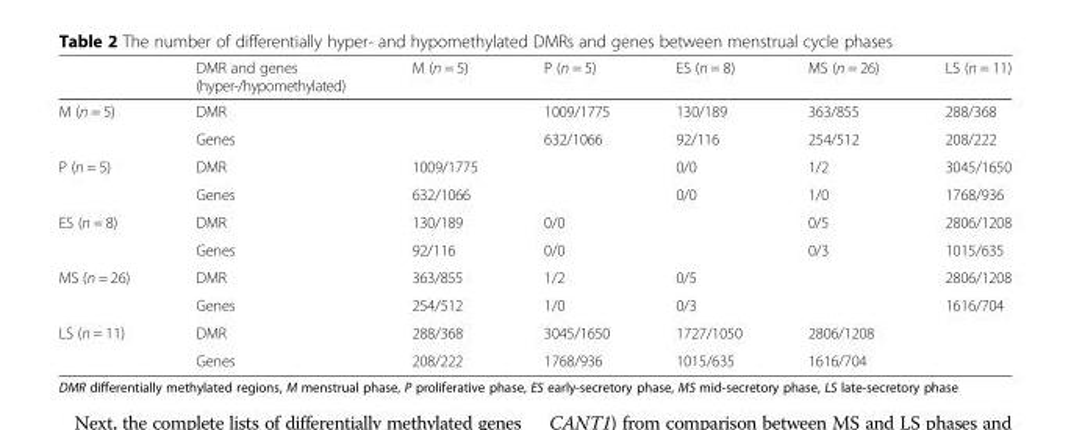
<table><thead><tr><td></td><td>DMR and genes (hyper-/hypomethylated)</td><td>M (n = 5)</td><td>P (n = 5)</td><td>ES (n = 8)</td><td>MS (n = 26)</td><td>LS (n = 11)</td></tr></thead><tbody><tr><td rowspan="2">M (n = 5)</td><td>DMR</td><td rowspan="2"></td><td>1009/1775</td><td>130/189</td><td>363/855</td><td>288/368</td></tr><tr><td>Genes</td><td>632/1066</td><td>92/116</td><td>254/512</td><td>208/222</td></tr><tr><td rowspan="2">P (n = 5)</td><td>DMR</td><td>1009/1775</td><td rowspan="2"></td><td>0/0</td><td>1/2</td><td>3045/1650</td></tr><tr><td>Genes</td><td>632/1066</td><td>0/0</td><td>1/0</td><td>1768/936</td></tr><tr><td rowspan="2">ES (n = 8)</td><td>DMR</td><td>130/189</td><td>0/0</td><td rowspan="2"></td><td>0/5</td><td>2806/1208</td></tr><tr><td>Genes</td><td>92/116</td><td>0/0</td><td>0/3</td><td>1015/635</td></tr><tr><td rowspan="2">MS (n = 26)</td><td>DMR</td><td>363/855</td><td>1/2</td><td>0/5</td><td rowspan="2"></td><td>2806/1208</td></tr><tr><td>Genes</td><td>254/512</td><td>1/0</td><td>0/3</td><td>1616/704</td></tr><tr><td rowspan="2">LS (n = 11)</td><td>DMR</td><td>288/368</td><td>3045/1650</td><td>1727/1050</td><td>2806/1208</td><td rowspan="2"></td></tr><tr><td>Genes</td><td>208/222</td><td>1768/936</td><td>1015/635</td><td>1616/704</td></tr></tbody></table>